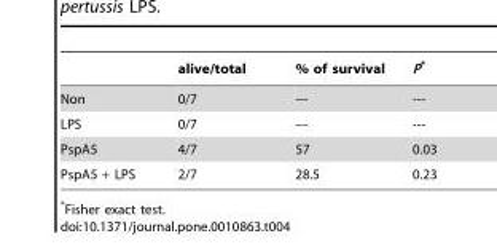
<table><thead><tr><td></td><td>alive/total</td><td>% of survival</td><td>P*</td></tr></thead><tbody><tr><td>Non</td><td>0/7</td><td>---</td><td>---</td></tr><tr><td>LPS</td><td>0/7</td><td>---</td><td>---</td></tr><tr><td>PspA5</td><td>4/7</td><td>57</td><td>0.03</td></tr><tr><td>PspA5 + LPS</td><td>2/7</td><td>28.5</td><td>0.23</td></tr></tbody></table>